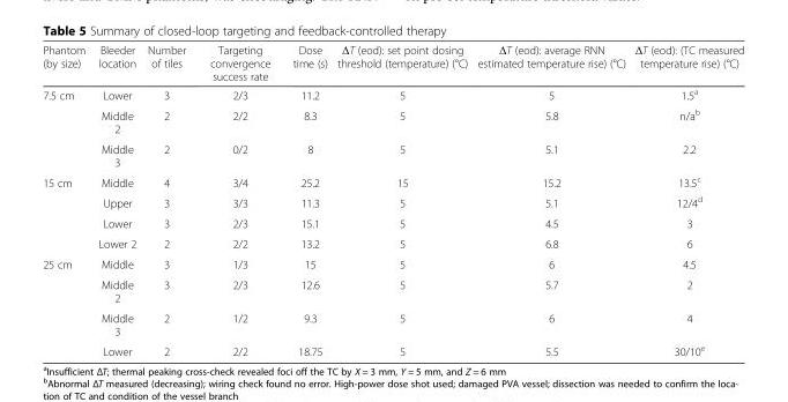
<table><thead><tr><td>Phantom (by size)</td><td>Bleeder location</td><td>Number of tiles</td><td>Targeting convergence success rate</td><td>Dose time (s)</td><td>ΔT (eod): set point dosing threshold (temperature) (°C)</td><td>ΔT (eod): average RNN estimated temperature rise) (°C)</td><td>ΔT (eod): (TC measured temperature rise) (°C)</td></tr></thead><tbody><tr><td rowspan="3">7.5 cm</td><td>Lower</td><td>3</td><td>2/3</td><td>11.2</td><td>5</td><td>5</td><td>1.5<sup>a</sup></td></tr><tr><td>Middle 2</td><td>2</td><td>2/2</td><td>8.3</td><td>5</td><td>5.8</td><td>n/a<sup>b</sup></td></tr><tr><td>Middle 3</td><td>2</td><td>0/2</td><td>8</td><td>5</td><td>5.1</td><td>2.2</td></tr><tr><td rowspan="4">15 cm</td><td>Middle</td><td>4</td><td>3/4</td><td>25.2</td><td>15</td><td>15.2</td><td>13.5<sup>c</sup></td></tr><tr><td>Upper</td><td>3</td><td>3/3</td><td>11.3</td><td>5</td><td>5.1</td><td>12/4<sup>d</sup></td></tr><tr><td>Lower</td><td>3</td><td>2/3</td><td>15.1</td><td>5</td><td>4.5</td><td>3</td></tr><tr><td>Lower 2</td><td>2</td><td>2/2</td><td>13.2</td><td>5</td><td>6.8</td><td>6</td></tr><tr><td rowspan="4">25 cm</td><td>Middle</td><td>3</td><td>1/3</td><td>15</td><td>5</td><td>6</td><td>4.5</td></tr><tr><td>Middle 2</td><td>3</td><td>2/3</td><td>12.6</td><td>5</td><td>5.7</td><td>2</td></tr><tr><td>Middle 3</td><td>2</td><td>1/2</td><td>9.3</td><td>5</td><td>6</td><td>4</td></tr><tr><td>Lower</td><td>2</td><td>2/2</td><td>18.75</td><td>5</td><td>5.5</td><td>30/10<sup>e</sup></td></tr></tbody></table>